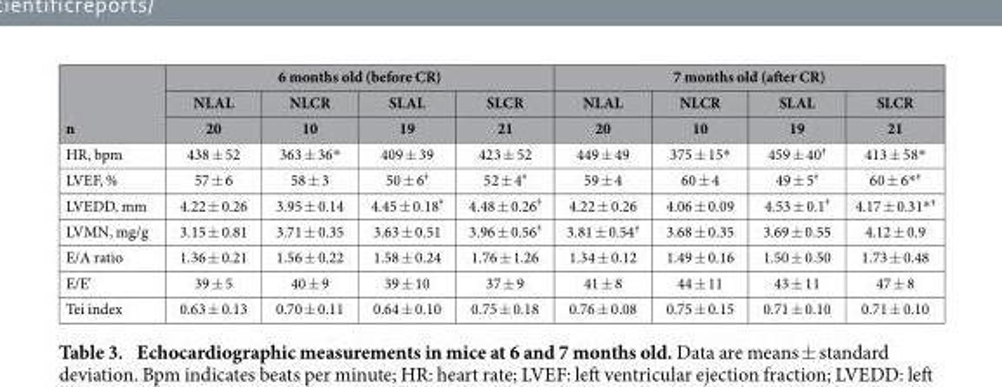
<table><thead><tr><td rowspan="3">n</td><td colspan="4">6 months old (before CR)</td><td colspan="4">7 months old (after CR)</td></tr><tr><td rowspan="2">NLAL 20</td><td rowspan="2">NLCR 10</td><td rowspan="2">SLAL 19</td><td rowspan="2">SLCR 21</td><td rowspan="2">NLAL 20</td><td rowspan="2">NLCR 10</td><td rowspan="2">SLAL 19</td><td rowspan="2">SLCR 21</td></tr><tr></tr></thead><tbody><tr><td>HR, bpm</td><td>438 ± 52</td><td>363 ± 36*</td><td>409 ± 39</td><td>423 ± 52</td><td>449 ± 49</td><td>375 ± 15*</td><td>459 ± 40<sup>†</sup></td><td>413 ± 58*</td></tr><tr><td>LVEF, %</td><td>57 ± 6</td><td>58 ± 3</td><td>50 ± 6<sup>ǂ</sup></td><td>52 ± 4<sup>ǂ</sup></td><td>59 ± 4</td><td>60 ± 4</td><td>49 ± 5<sup>ǂ</sup></td><td>60 ± 6* <sup>†</sup></td></tr><tr><td>LVEDD, mm</td><td>4.22 ± 0.26</td><td>3.95 ± 0.14</td><td>4.45 ± 0.18<sup>ǂ</sup></td><td>4.48 ± 0.26<sup>ǂ</sup></td><td>4.22 ± 0.26</td><td>4.06 ± 0.09</td><td>4.53 ± 0.1<sup>ǂ</sup></td><td>4.17 ± 0.31* <sup>†</sup></td></tr><tr><td>LVMN, mg/g</td><td>3.15 ± 0.81</td><td>3.71 ± 0.35</td><td>3.63 ± 0.51</td><td>3.96 ± 0.56<sup>ǂ</sup></td><td>3.81 ± 0.54<sup>†</sup></td><td>3.68 ± 0.35</td><td>3.69 ± 0.55</td><td>4.12 ± 0.9</td></tr><tr><td>E/A ratio</td><td>1.36 ± 0.21</td><td>1.56 ± 0.22</td><td>1.58 ± 0.24</td><td>1.76 ± 1.26</td><td>1.34 ± 0.12</td><td>1.49 ± 0.16</td><td>1.50 ± 0.50</td><td>1.73 ± 0.48</td></tr><tr><td>E/E&#x27;</td><td>39 ± 5</td><td>40 ± 9</td><td>39 ± 10</td><td>37 ± 9</td><td>41 ± 8</td><td>44 ± 11</td><td>43 ± 11</td><td>47 ± 8</td></tr><tr><td>Tei index</td><td>0.63 ± 0.13</td><td>0.70 ± 0.11</td><td>0.64 ± 0.10</td><td>0.75 ± 0.18</td><td>0.76 ± 0.08</td><td>0.75 ± 0.15</td><td>0.71 ± 0.10</td><td>0.71 ± 0.10</td></tr></tbody></table>